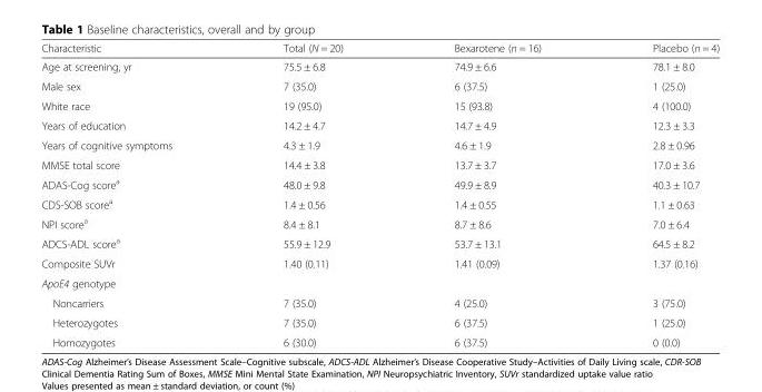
<table><thead><tr><td>Characteristic</td><td>Total (N = 20)</td><td>Bexarotene (n = 16)</td><td>Placebo (n = 4)</td></tr></thead><tbody><tr><td>Age at screening, yr</td><td>75.5 ± 6.8</td><td>74.9 ± 6.6</td><td>78.1 ± 8.0</td></tr><tr><td>Male sex</td><td>7 (35.0)</td><td>6 (37.5)</td><td>1 (25.0)</td></tr><tr><td>White race</td><td>19 (95.0)</td><td>15 (93.8)</td><td>4 (100.0)</td></tr><tr><td>Years of education</td><td>14.2 ± 4.7</td><td>14.7 ± 4.9</td><td>12.3 ± 3.3</td></tr><tr><td>Years of cognitive symptoms</td><td>4.3 ± 1.9</td><td>4.6 ± 1.9</td><td>2.8 ± 0.96</td></tr><tr><td>MMSE total score</td><td>14.4 ± 3.8</td><td>13.7 ± 3.7</td><td>17.0 ± 3.6</td></tr><tr><td>ADAS-Cog score<sup>a</sup></td><td>48.0 ± 9.8</td><td>49.9 ± 8.9</td><td>40.3 ± 10.7</td></tr><tr><td>CDS-SOB score<sup>a</sup></td><td>1.4 ± 0.56</td><td>1.4 ± 0.55</td><td>1.1 ± 0.63</td></tr><tr><td>NPI score<sup>a</sup></td><td>8.4 ± 8.1</td><td>8.7 ± 8.6</td><td>7.0 ± 6.4</td></tr><tr><td>ADCS-ADL score<sup>a</sup></td><td>55.9 ± 12.9</td><td>53.7 ± 13.1</td><td>64.5 ± 8.2</td></tr><tr><td>Composite SUVr</td><td>1.40 (0.11)</td><td>1.41 (0.09)</td><td>1.37 (0.16)</td></tr><tr><td colspan="4">ApoE4 genotype</td></tr><tr><td>Noncarriers</td><td>7 (35.0)</td><td>4 (25.0)</td><td>3 (75.0)</td></tr><tr><td>Heterozygotes</td><td>7 (35.0)</td><td>6 (37.5)</td><td>1 (25.0)</td></tr><tr><td>Homozygotes</td><td>6 (30.0)</td><td>6 (37.5)</td><td>0 (0.0)</td></tr></tbody></table>